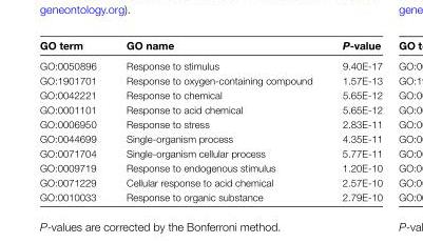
<table><thead><tr><td>GO term</td><td>GO name</td><td>P-value</td></tr></thead><tbody><tr><td>GO:0050896</td><td>Response to stimulus</td><td>9.40E-17</td></tr><tr><td>GO:1901701</td><td>Response to oxygen-containing compound</td><td>1.57E-13</td></tr><tr><td>GO:0042221</td><td>Response to chemical</td><td>5.65E-12</td></tr><tr><td>GO:0001101</td><td>Response to acid chemical</td><td>5.65E-12</td></tr><tr><td>GO:0006950</td><td>Response to stress</td><td>2.83E-11</td></tr><tr><td>GO:0044699</td><td>Single-organism process</td><td>4.35E-11</td></tr><tr><td>GO:0071704</td><td>Single-organism cellular process</td><td>5.77E-11</td></tr><tr><td>GO:0009719</td><td>Response to endogenous stimulus</td><td>1.20E-10</td></tr><tr><td>GO:0071229</td><td>Cellular response to acid chemical</td><td>2.57E-10</td></tr><tr><td>GO:0010033</td><td>Response to organic substance</td><td>2.79E-10</td></tr></tbody></table>